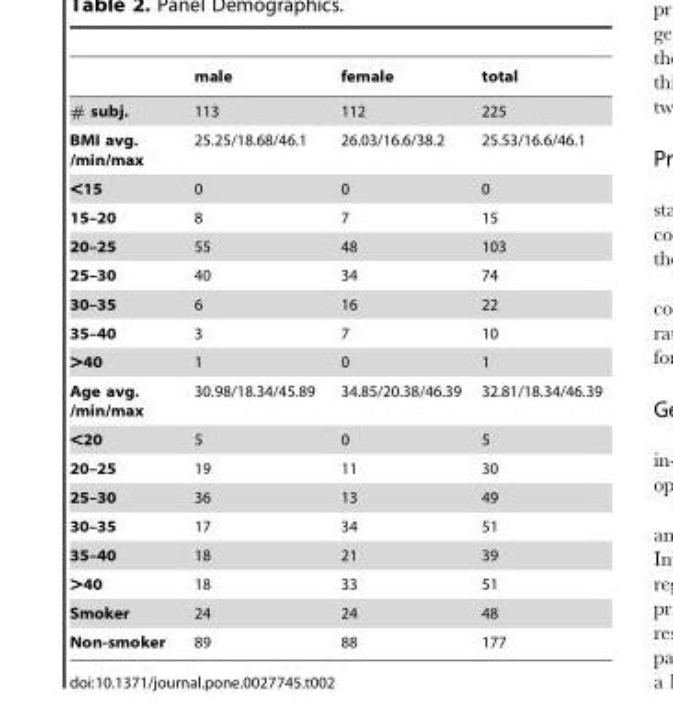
<table><thead><tr><td></td><td>male</td><td>female</td><td>total</td></tr></thead><tbody><tr><td># subj.</td><td>113</td><td>112</td><td>225</td></tr><tr><td>BMI avg. /min/max</td><td>25.25/18.68/46.1</td><td>26.03/16.6/38.2</td><td>25.53/16.6/46.1</td></tr><tr><td>&lt;15</td><td>0</td><td>0</td><td>0</td></tr><tr><td>15–20</td><td>8</td><td>7</td><td>15</td></tr><tr><td>20–25</td><td>55</td><td>48</td><td>103</td></tr><tr><td>25–30</td><td>40</td><td>34</td><td>74</td></tr><tr><td>30–35</td><td>6</td><td>16</td><td>22</td></tr><tr><td>35–40</td><td>3</td><td>7</td><td>10</td></tr><tr><td>&gt;40</td><td>1</td><td>0</td><td>1</td></tr><tr><td>Age avg. /min/max</td><td>30.98/18.34/45.89</td><td>34.85/20.38/46.39</td><td>32.81/18.34/46.39</td></tr><tr><td>&lt;20</td><td>5</td><td>0</td><td>5</td></tr><tr><td>20–25</td><td>19</td><td>11</td><td>30</td></tr><tr><td>25–30</td><td>36</td><td>13</td><td>49</td></tr><tr><td>30–35</td><td>17</td><td>34</td><td>51</td></tr><tr><td>35–40</td><td>18</td><td>21</td><td>39</td></tr><tr><td>&gt;40</td><td>18</td><td>33</td><td>51</td></tr><tr><td>Smoker</td><td>24</td><td>24</td><td>48</td></tr><tr><td>Non-smoker</td><td>89</td><td>88</td><td>177</td></tr></tbody></table>